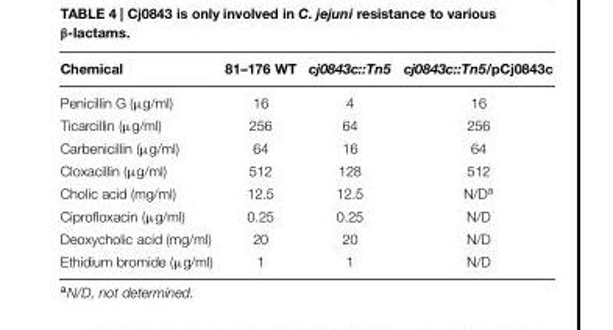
<table><thead><tr><td>Chemical</td><td>81–176 WT</td><td>cj0843c::Tn5</td><td>cj0843c::Tn5/pCj0843c</td></tr></thead><tbody><tr><td>Penicillin G (μg/ml)</td><td>16</td><td>4</td><td>16</td></tr><tr><td>Ticarcillin (μg/ml)</td><td>256</td><td>64</td><td>256</td></tr><tr><td>Carbenicillin (μg/ml)</td><td>64</td><td>16</td><td>64</td></tr><tr><td>Cloxacillin (μg/ml)</td><td>512</td><td>128</td><td>512</td></tr><tr><td>Cholic acid (mg/ml)</td><td>12.5</td><td>12.5</td><td>N/D<sup>a</sup></td></tr><tr><td>Ciprofloxacin (μg/ml)</td><td>0.25</td><td>0.25</td><td>N/D</td></tr><tr><td>Deoxycholic acid (mg/ml)</td><td>20</td><td>20</td><td>N/D</td></tr><tr><td>Ethidium bromide (μg/ml)</td><td>1</td><td>1</td><td>N/D</td></tr></tbody></table>